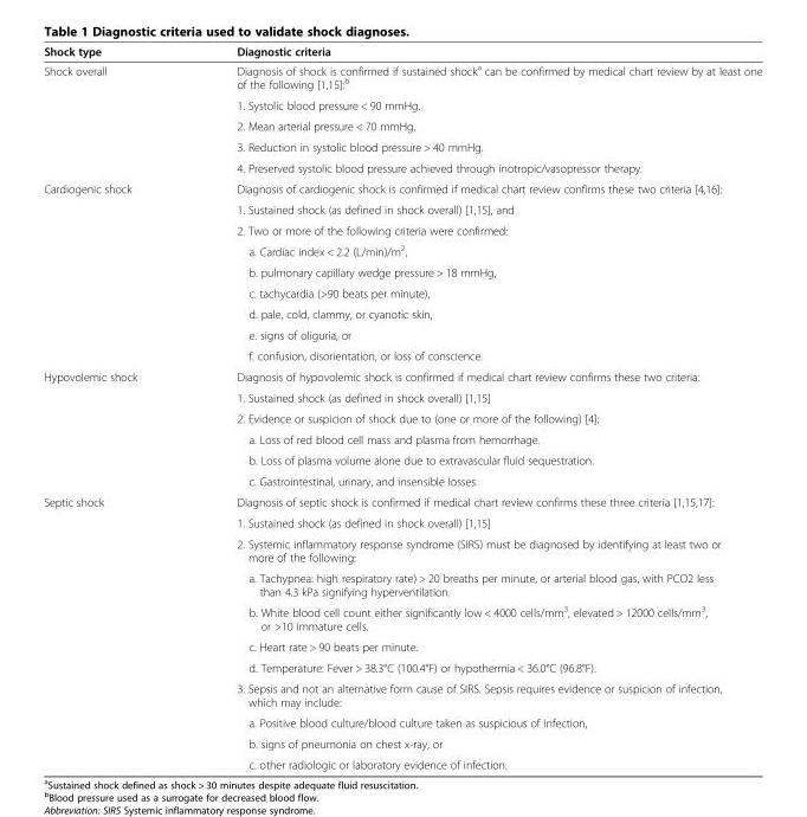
<table><thead><tr><td>Shock type</td><td>Diagnostic criteria</td></tr></thead><tbody><tr><td rowspan="5">Shock overall</td><td>Diagnosis of shock is confirmed if sustained shock<sup>a</sup> can be confirmed by medical chart review by at least one of the following [1,15]:<sup>b</sup></td></tr><tr><td>1. Systolic blood pressure &lt; 90 mmHg.</td></tr><tr><td>2. Mean arterial pressure &lt; 70 mmHg.</td></tr><tr><td>3. Reduction in systolic blood pressure &gt; 40 mmHg.</td></tr><tr><td>4. Preserved systolic blood pressure achieved through inotropic/vasopressor therapy.</td></tr><tr><td rowspan="9">Cardiogenic shock</td><td>Diagnosis of cardiogenic shock is confirmed if medical chart review confirms these two criteria [4,16]:</td></tr><tr><td>1. Sustained shock (as defined in shock overall) [1,15], and</td></tr><tr><td>2. Two or more of the following criteria were confirmed:</td></tr><tr><td>a. Cardiac index &lt; 2.2 (L/min)/m<sup>2</sup>,</td></tr><tr><td>b. pulmonary capillary wedge pressure &gt; 18 mmHg,</td></tr><tr><td>c. tachycardia (&gt;90 beats per minute),</td></tr><tr><td>d. pale, cold, clammy, or cyanotic skin,</td></tr><tr><td>e. signs of oliguria, or</td></tr><tr><td>f. confusion, disorientation, or loss of conscience.</td></tr><tr><td rowspan="6">Hypovolemic shock</td><td>Diagnosis of hypovolemic shock is confirmed if medical chart review confirms these two criteria:</td></tr><tr><td>1. Sustained shock (as defined in shock overall) [1,15]</td></tr><tr><td>2. Evidence or suspicion of shock due to (one or more of the following) [4]:</td></tr><tr><td>a. Loss of red blood cell mass and plasma from hemorrhage.</td></tr><tr><td>b. Loss of plasma volume alone due to extravascular fluid sequestration.</td></tr><tr><td>c. Gastrointestinal, urinary, and insensible losses.</td></tr><tr><td rowspan="11">Septic shock</td><td>Diagnosis of septic shock is confirmed if medical chart review confirms these three criteria [1,15,17]:</td></tr><tr><td>1. Sustained shock (as defined in shock overall) [1,15]</td></tr><tr><td>2. Systemic inflammatory response syndrome (SIRS) must be diagnosed by identifying at least two or more of the following:</td></tr><tr><td>a. Tachypnea: high respiratory rate) &gt; 20 breaths per minute, or arterial blood gas, with PCO2 less than 4.3 kPa signifying hyperventilation.</td></tr><tr><td>b. White blood cell count either significantly low &lt; 4000 cells/mm<sup>3</sup>, elevated &gt; 12000 cells/mm<sup>3</sup>, or &gt;10 immature cells.</td></tr><tr><td>c. Heart rate &gt; 90 beats per minute.</td></tr><tr><td>d. Temperature: Fever &gt; 38.3°C (100.4°F) or hypothermia &lt; 36.0°C (96.8°F).</td></tr><tr><td>3. Sepsis and not an alternative form cause of SIRS. Sepsis requires evidence or suspicion of infection, which may include:</td></tr><tr><td>a. Positive blood culture/blood culture taken as suspicious of infection,</td></tr><tr><td>b. signs of pneumonia on chest x-ray, or</td></tr><tr><td>c. other radiologic or laboratory evidence of infection.</td></tr></tbody></table>